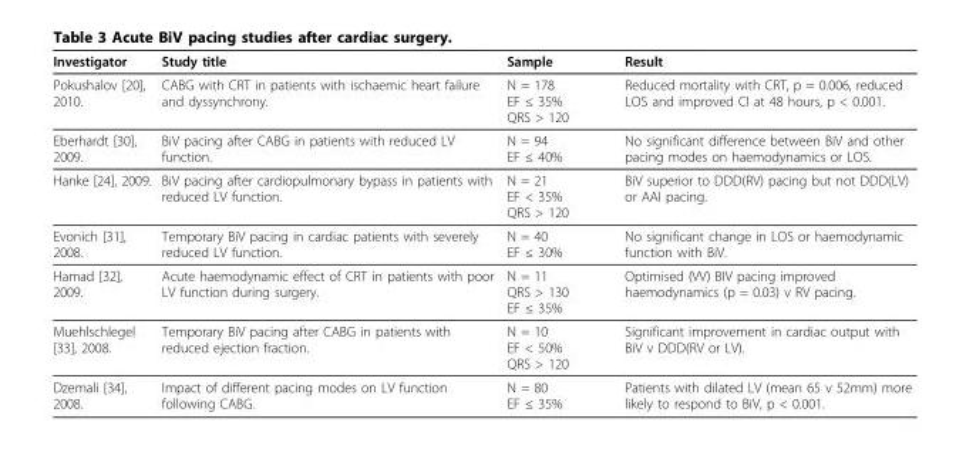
<table><thead><tr><td>Investigator</td><td>Study title</td><td>Sample</td><td>Result</td></tr></thead><tbody><tr><td>Pokushalov [20], 2010.</td><td>CABG with CRT in patients with ischaemic heart failure and dyssynchrony.</td><td>N = 178 EF ≤ 35% QRS &gt; 120</td><td>Reduced mortality with CRT, p = 0.006, reduced LOS and improved CI at 48 hours, p &lt; 0.001.</td></tr><tr><td>Eberhardt [30], 2009.</td><td>BiV pacing after CABG in patients with reduced LV function.</td><td>N = 94 EF ≤ 40%</td><td>No significant difference between BiV and other pacing modes on haemodynamics or LOS.</td></tr><tr><td>Hanke [24], 2009.</td><td>BiV pacing after cardiopulmonary bypass in patients with reduced LV function.</td><td>N = 21 EF &lt; 35% QRS &gt; 120</td><td>BiV superior to DDD(RV) pacing but not DDD(LV) or AAI pacing.</td></tr><tr><td>Evonich [31], 2008.</td><td>Temporary BiV pacing in cardiac patients with severely reduced LV function.</td><td>N = 40 EF ≤ 30%</td><td>No significant change in LOS or haemodynamic function with BiV.</td></tr><tr><td>Hamad [32], 2009.</td><td>Acute haemodynamic effect of CRT in patients with poor LV function during surgery.</td><td>N = 11 QRS &gt; 130 EF ≤ 35%</td><td>Optimised (VV) BIV pacing improved haemodynamics (p = 0.03) v RV pacing.</td></tr><tr><td>Muehlschlegel [33], 2008.</td><td>Temporary BiV pacing after CABG in patients with reduced ejection fraction.</td><td>N = 10 EF &lt; 50% QRS &gt; 120</td><td>Significant improvement in cardiac output with BiV v DDD(RV or LV).</td></tr><tr><td>Dzemali [34], 2008.</td><td>Impact of different pacing modes on LV function following CABG.</td><td>N = 80 EF ≤ 35%</td><td>Patients with dilated LV (mean 65 v 52mm) more likely to respond to BiV, p &lt; 0.001.</td></tr></tbody></table>